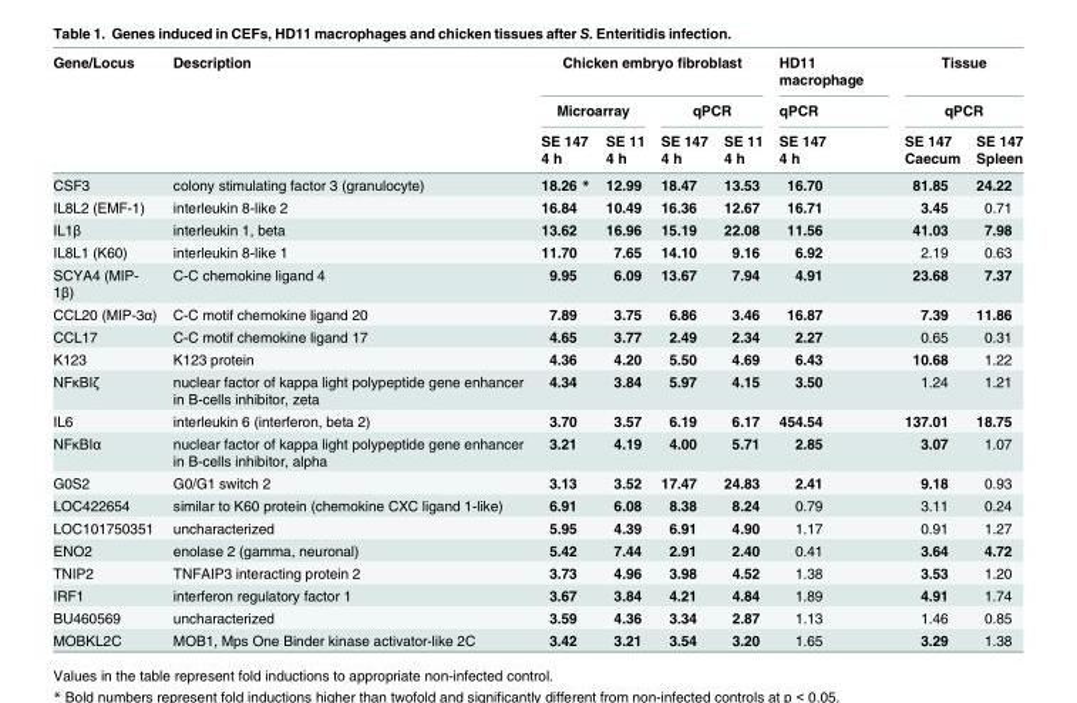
<table><thead><tr><td rowspan="4">Gene/Locus</td><td rowspan="4">Description</td><td colspan="4">Chicken embryo fibroblast</td><td rowspan="4">HD11 macrophage qPCR SE 147 4 h</td><td rowspan="2" colspan="2">Tissue qPCR</td></tr><tr><td colspan="2">Microarray</td><td colspan="2">qPCR</td></tr><tr><td rowspan="2">SE 147 4 h</td><td rowspan="2">SE 11 4 h</td><td rowspan="2">SE 147 4 h</td><td rowspan="2">SE 11 4 h</td><td rowspan="2">SE 147 Caecum</td><td rowspan="2">SE 147 Spleen</td></tr><tr></tr></thead><tbody><tr><td>CSF3</td><td>colony stimulating factor 3 (granulocyte)</td><td>18.26 *</td><td>12.99</td><td>18.47</td><td>13.53</td><td>16.70</td><td>81.85</td><td>24.22</td></tr><tr><td>IL8L2 (EMF-1)</td><td>interleukin 8-like 2</td><td>16.84</td><td>10.49</td><td>16.36</td><td>12.67</td><td>16.71</td><td>3.45</td><td>0.71</td></tr><tr><td>IL1β</td><td>interleukin 1, beta</td><td>13.62</td><td>16.96</td><td>15.19</td><td>22.08</td><td>11.56</td><td>41.03</td><td>7.98</td></tr><tr><td>IL8L1 (K60)</td><td>interleukin 8-like 1</td><td>11.70</td><td>7.65</td><td>14.10</td><td>9.16</td><td>6.92</td><td>2.19</td><td>0.63</td></tr><tr><td>SCYA4 (MIP- 1β)</td><td>C-C chemokine ligand 4</td><td>9.95</td><td>6.09</td><td>13.67</td><td>7.94</td><td>4.91</td><td>23.68</td><td>7.37</td></tr><tr><td>CCL20 (MIP-3α)</td><td>C-C motif chemokine ligand 20</td><td>7.89</td><td>3.75</td><td>6.86</td><td>3.46</td><td>16.87</td><td>7.39</td><td>11.86</td></tr><tr><td>CCL17</td><td>C-C motif chemokine ligand 17</td><td>4.65</td><td>3.77</td><td>2.49</td><td>2.34</td><td>2.27</td><td>0.65</td><td>0.31</td></tr><tr><td>K123</td><td>K123 protein</td><td>4.36</td><td>4.20</td><td>5.50</td><td>4.69</td><td>6.43</td><td>10.68</td><td>1.22</td></tr><tr><td>NFκBIζ</td><td>nuclear factor of kappa light polypeptide gene enhancer in B-cells inhibitor, zeta</td><td>4.34</td><td>3.84</td><td>5.97</td><td>4.15</td><td>3.50</td><td>1.24</td><td>1.21</td></tr><tr><td>IL6</td><td>interleukin 6 (interferon, beta 2)</td><td>3.70</td><td>3.57</td><td>6.19</td><td>6.17</td><td>454.54</td><td>137.01</td><td>18.75</td></tr><tr><td>NFκBIα</td><td>nuclear factor of kappa light polypeptide gene enhancer in B-cells inhibitor, alpha</td><td>3.21</td><td>4.19</td><td>4.00</td><td>5.71</td><td>2.85</td><td>3.07</td><td>1.07</td></tr><tr><td>G0S2</td><td>G0/G1 switch 2</td><td>3.13</td><td>3.52</td><td>17.47</td><td>24.83</td><td>2.41</td><td>9.18</td><td>0.93</td></tr><tr><td>LOC422654</td><td>similar to K60 protein (chemokine CXC ligand 1-like)</td><td>6.91</td><td>6.08</td><td>8.38</td><td>8.24</td><td>0.79</td><td>3.11</td><td>0.24</td></tr><tr><td>LOC101750351</td><td>uncharacterized</td><td>5.95</td><td>4.39</td><td>6.91</td><td>4.90</td><td>1.17</td><td>0.91</td><td>1.27</td></tr><tr><td>ENO2</td><td>enolase 2 (gamma, neuronal)</td><td>5.42</td><td>7.44</td><td>2.91</td><td>2.40</td><td>0.41</td><td>3.64</td><td>4.72</td></tr><tr><td>TNIP2</td><td>TNFAIP3 interacting protein 2</td><td>3.73</td><td>4.96</td><td>3.98</td><td>4.52</td><td>1.38</td><td>3.53</td><td>1.20</td></tr><tr><td>IRF1</td><td>interferon regulatory factor 1</td><td>3.67</td><td>3.84</td><td>4.21</td><td>4.84</td><td>1.89</td><td>4.91</td><td>1.74</td></tr><tr><td>BU460569</td><td>uncharacterized</td><td>3.59</td><td>4.36</td><td>3.34</td><td>2.87</td><td>1.13</td><td>1.46</td><td>0.85</td></tr><tr><td>MOBKL2C</td><td>MOB1, Mps One Binder kinase activator-like 2C</td><td>3.42</td><td>3.21</td><td>3.54</td><td>3.20</td><td>1.65</td><td>3.29</td><td>1.38</td></tr></tbody></table>